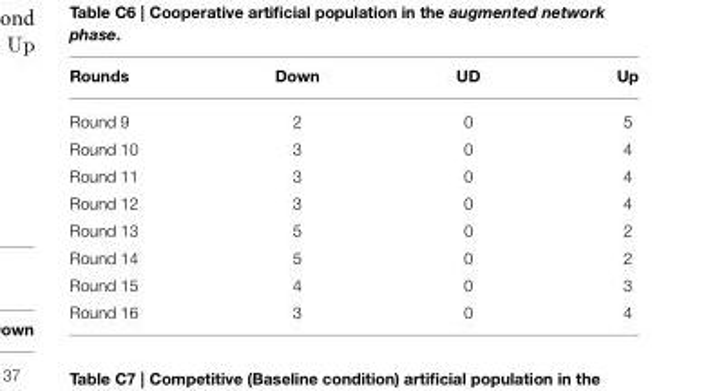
<table><thead><tr><td>Rounds</td><td>Down</td><td>UD</td><td>Up</td></tr></thead><tbody><tr><td>Round 9</td><td>2</td><td>0</td><td>5</td></tr><tr><td>Round 10</td><td>3</td><td>0</td><td>4</td></tr><tr><td>Round 11</td><td>3</td><td>0</td><td>4</td></tr><tr><td>Round 12</td><td>3</td><td>0</td><td>4</td></tr><tr><td>Round 13</td><td>5</td><td>0</td><td>2</td></tr><tr><td>Round 14</td><td>5</td><td>0</td><td>2</td></tr><tr><td>Round 15</td><td>4</td><td>0</td><td>3</td></tr><tr><td>Round 16</td><td>3</td><td>0</td><td>4</td></tr></tbody></table>